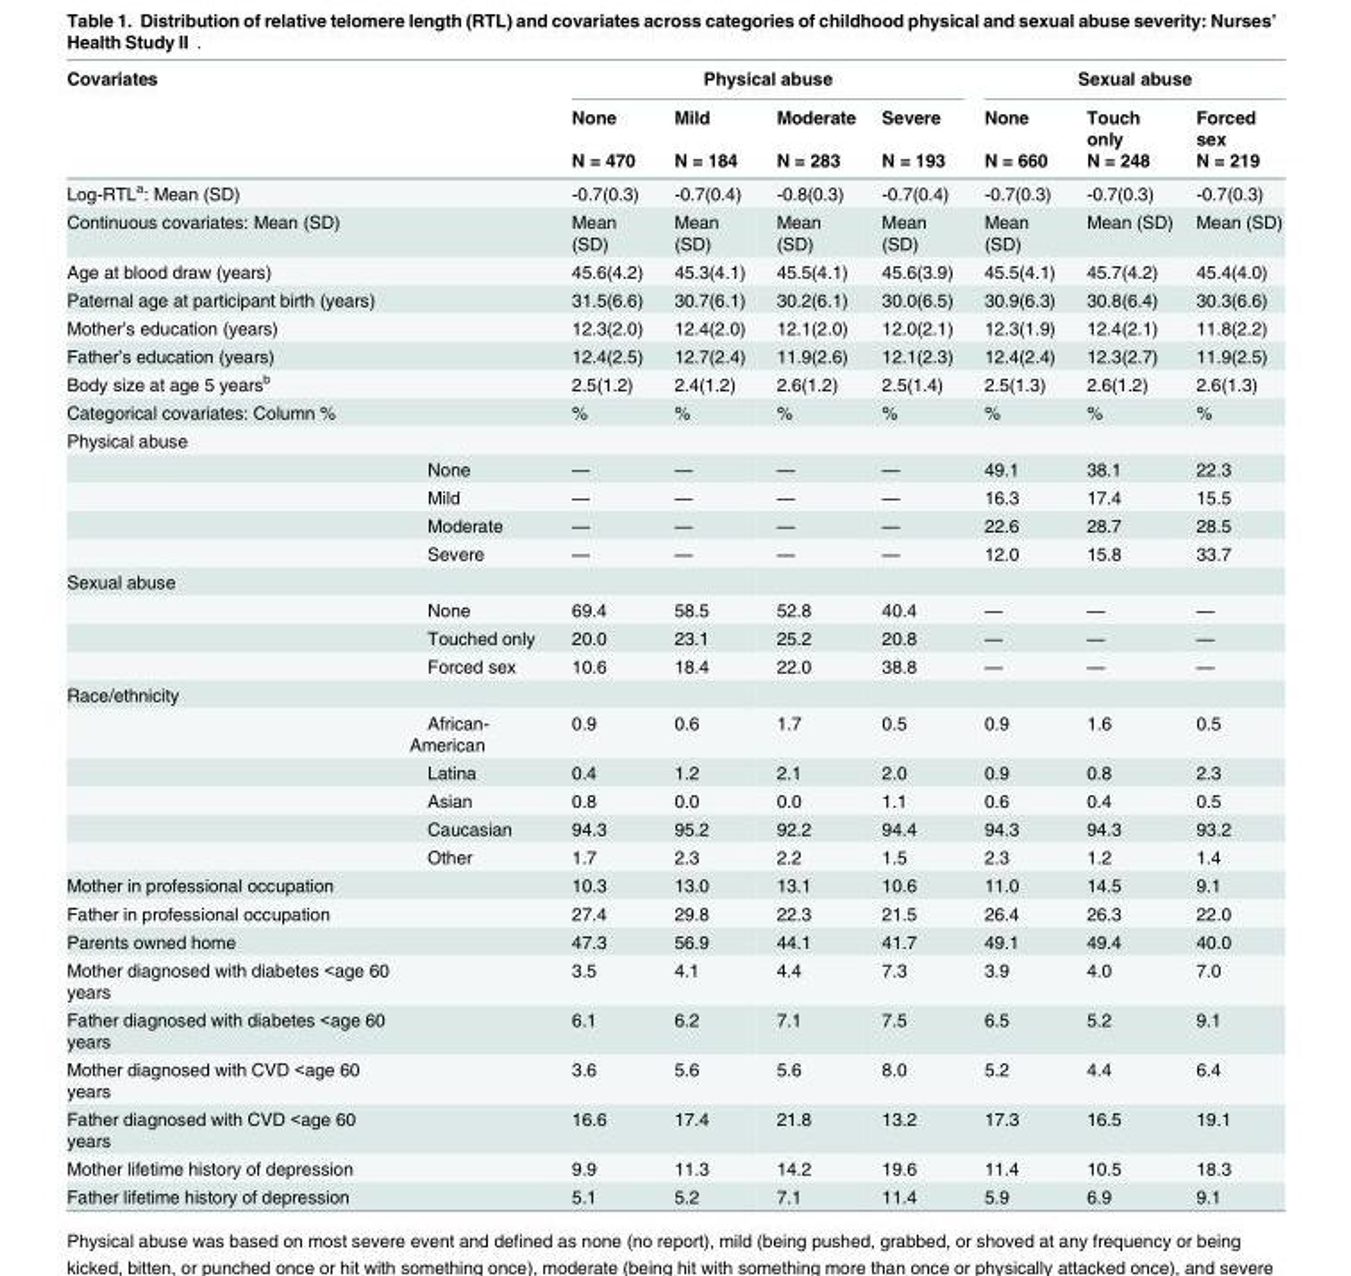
<table><thead><tr><td rowspan="3">Covariates</td><td rowspan="3"></td><td colspan="4">Physical abuse</td><td colspan="3">Sexual abuse</td></tr><tr><td rowspan="2">None N = 470</td><td rowspan="2">Mild N = 184</td><td rowspan="2">Moderate N = 283</td><td rowspan="2">Severe N = 193</td><td rowspan="2">None N = 660</td><td rowspan="2">Touch only N = 248</td><td rowspan="2">Forced sex N = 219</td></tr><tr></tr></thead><tbody><tr><td>Log-RTL<sup>a</sup>: Mean (SD)</td><td></td><td>-0.7(0.3)</td><td>-0.7(0.4)</td><td>-0.8(0.3)</td><td>-0.7(0.4)</td><td>-0.7(0.3)</td><td>-0.7(0.3)</td><td>-0.7(0.3)</td></tr><tr><td>Continuous covariates: Mean (SD)</td><td></td><td>Mean (SD)</td><td>Mean (SD)</td><td>Mean (SD)</td><td>Mean (SD)</td><td>Mean (SD)</td><td>Mean (SD)</td><td>Mean (SD)</td></tr><tr><td>Age at blood draw (years)</td><td></td><td>45.6(4.2)</td><td>45.3(4.1)</td><td>45.5(4.1)</td><td>45.6(3.9)</td><td>45.5(4.1)</td><td>45.7(4.2)</td><td>45.4(4.0)</td></tr><tr><td>Paternal age at participant birth (years)</td><td></td><td>31.5(6.6)</td><td>30.7(6.1)</td><td>30.2(6.1)</td><td>30.0(6.5)</td><td>30.9(6.3)</td><td>30.8(6.4)</td><td>30.3(6.6)</td></tr><tr><td>Mother’s education (years)</td><td></td><td>12.3(2.0)</td><td>12.4(2.0)</td><td>12.1(2.0)</td><td>12.0(2.1)</td><td>12.3(1.9)</td><td>12.4(2.1)</td><td>11.8(2.2)</td></tr><tr><td>Father’s education (years)</td><td></td><td>12.4(2.5)</td><td>12.7(2.4)</td><td>11.9(2.6)</td><td>12.1(2.3)</td><td>12.4(2.4)</td><td>12.3(2.7)</td><td>11.9(2.5)</td></tr><tr><td>Body size at age 5 years<sup>b</sup></td><td></td><td>2.5(1.2)</td><td>2.4(1.2)</td><td>2.6(1.2)</td><td>2.5(1.4)</td><td>2.5(1.3)</td><td>2.6(1.2)</td><td>2.6(1.3)</td></tr><tr><td>Categorical covariates: Column %</td><td></td><td>%</td><td>%</td><td>%</td><td>%</td><td>%</td><td>%</td><td>%</td></tr><tr><td colspan="9">Physical abuse</td></tr><tr><td></td><td>None</td><td>—</td><td>—</td><td>—</td><td>—</td><td>49.1</td><td>38.1</td><td>22.3</td></tr><tr><td></td><td>Mild</td><td>—</td><td>—</td><td>—</td><td>—</td><td>16.3</td><td>17.4</td><td>15.5</td></tr><tr><td></td><td>Moderate</td><td>—</td><td>—</td><td>—</td><td>—</td><td>22.6</td><td>28.7</td><td>28.5</td></tr><tr><td></td><td>Severe</td><td>—</td><td>—</td><td>—</td><td>—</td><td>12.0</td><td>15.8</td><td>33.7</td></tr><tr><td colspan="9">Sexual abuse</td></tr><tr><td></td><td>None</td><td>69.4</td><td>58.5</td><td>52.8</td><td>40.4</td><td>—</td><td>—</td><td>—</td></tr><tr><td></td><td>Touched only</td><td>20.0</td><td>23.1</td><td>25.2</td><td>20.8</td><td>—</td><td>—</td><td>—</td></tr><tr><td></td><td>Forced sex</td><td>10.6</td><td>18.4</td><td>22.0</td><td>38.8</td><td>—</td><td>—</td><td>—</td></tr><tr><td colspan="9">Race/ethnicity</td></tr><tr><td></td><td>African- American</td><td>0.9</td><td>0.6</td><td>1.7</td><td>0.5</td><td>0.9</td><td>1.6</td><td>0.5</td></tr><tr><td></td><td>Latina</td><td>0.4</td><td>1.2</td><td>2.1</td><td>2.0</td><td>0.9</td><td>0.8</td><td>2.3</td></tr><tr><td></td><td>Asian</td><td>0.8</td><td>0.0</td><td>0.0</td><td>1.1</td><td>0.6</td><td>0.4</td><td>0.5</td></tr><tr><td></td><td>Caucasian</td><td>94.3</td><td>95.2</td><td>92.2</td><td>94.4</td><td>94.3</td><td>94.3</td><td>93.2</td></tr><tr><td></td><td>Other</td><td>1.7</td><td>2.3</td><td>2.2</td><td>1.5</td><td>2.3</td><td>1.2</td><td>1.4</td></tr><tr><td>Mother in professional occupation</td><td></td><td>10.3</td><td>13.0</td><td>13.1</td><td>10.6</td><td>11.0</td><td>14.5</td><td>9.1</td></tr><tr><td>Father in professional occupation</td><td></td><td>27.4</td><td>29.8</td><td>22.3</td><td>21.5</td><td>26.4</td><td>26.3</td><td>22.0</td></tr><tr><td>Parents owned home</td><td></td><td>47.3</td><td>56.9</td><td>44.1</td><td>41.7</td><td>49.1</td><td>49.4</td><td>40.0</td></tr><tr><td>Mother diagnosed with diabetes &lt;age 60 years</td><td></td><td>3.5</td><td>4.1</td><td>4.4</td><td>7.3</td><td>3.9</td><td>4.0</td><td>7.0</td></tr><tr><td>Father diagnosed with diabetes &lt;age 60 years</td><td></td><td>6.1</td><td>6.2</td><td>7.1</td><td>7.5</td><td>6.5</td><td>5.2</td><td>9.1</td></tr><tr><td>Mother diagnosed with CVD &lt;age 60 years</td><td></td><td>3.6</td><td>5.6</td><td>5.6</td><td>8.0</td><td>5.2</td><td>4.4</td><td>6.4</td></tr><tr><td>Father diagnosed with CVD &lt;age 60 years</td><td></td><td>16.6</td><td>17.4</td><td>21.8</td><td>13.2</td><td>17.3</td><td>16.5</td><td>19.1</td></tr><tr><td>Mother lifetime history of depression</td><td></td><td>9.9</td><td>11.3</td><td>14.2</td><td>19.6</td><td>11.4</td><td>10.5</td><td>18.3</td></tr><tr><td>Father lifetime history of depression</td><td></td><td>5.1</td><td>5.2</td><td>7.1</td><td>11.4</td><td>5.9</td><td>6.9</td><td>9.1</td></tr></tbody></table>